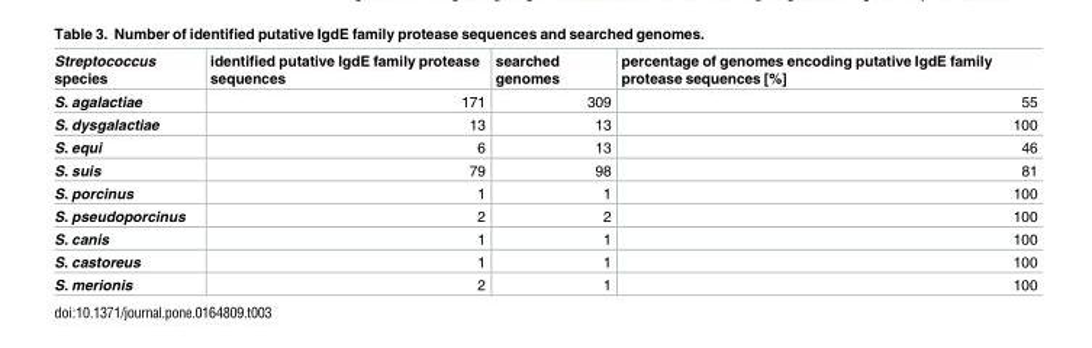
<table><thead><tr><td>Streptococcus species</td><td>identified putative IgdE family protease sequences</td><td>searched genomes</td><td>percentage of genomes encoding putative IgdE family protease sequences [%]</td></tr></thead><tbody><tr><td>S. agalactiae</td><td>171</td><td>309</td><td>55</td></tr><tr><td>S. dysgalactiae</td><td>13</td><td>13</td><td>100</td></tr><tr><td>S. equi</td><td>6</td><td>13</td><td>46</td></tr><tr><td>S. suis</td><td>79</td><td>98</td><td>81</td></tr><tr><td>S. porcinus</td><td>1</td><td>1</td><td>100</td></tr><tr><td>S. pseudoporcinus</td><td>2</td><td>2</td><td>100</td></tr><tr><td>S. canis</td><td>1</td><td>1</td><td>100</td></tr><tr><td>S. castoreus</td><td>1</td><td>1</td><td>100</td></tr><tr><td>S. merionis</td><td>2</td><td>1</td><td>100</td></tr></tbody></table>